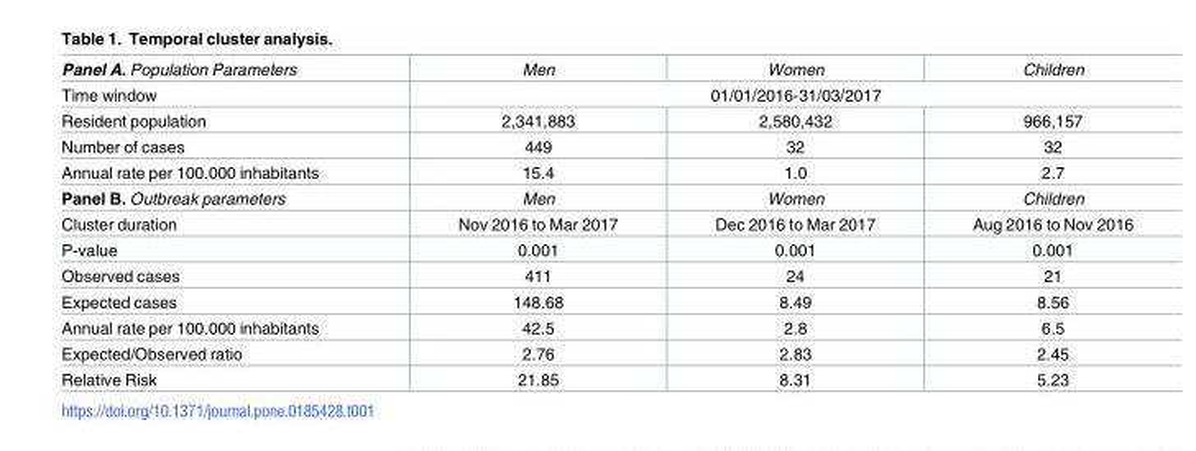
<table><tbody><tr><td>Panel A. Population Parameters</td><td>Men</td><td>Women</td><td>Children</td></tr><tr><td>Time window</td><td colspan="3">01/01/2016-31/03/2017</td></tr><tr><td>Resident population</td><td>2,341,883</td><td>2,580,432</td><td>966,157</td></tr><tr><td>Number of cases</td><td>449</td><td>32</td><td>32</td></tr><tr><td>Annual rate per 100.000 inhabitants</td><td>15.4</td><td>1.0</td><td>2.7</td></tr><tr><td>Panel B. Outbreak parameters</td><td>Men</td><td>Women</td><td>Children</td></tr><tr><td>Cluster duration</td><td>Nov 2016 to Mar 2017</td><td>Dec 2016 to Mar 2017</td><td>Aug 2016 to Nov 2016</td></tr><tr><td>P-value</td><td>0.001</td><td>0.001</td><td>0.001</td></tr><tr><td>Observed cases</td><td>411</td><td>24</td><td>21</td></tr><tr><td>Expected cases</td><td>148.68</td><td>8.49</td><td>8.56</td></tr><tr><td>Annual rate per 100.000 inhabitants</td><td>42.5</td><td>2.8</td><td>6.5</td></tr><tr><td>Expected/Observed ratio</td><td>2.76</td><td>2.83</td><td>2.45</td></tr><tr><td>Relative Risk</td><td>21.85</td><td>8.31</td><td>5.23</td></tr></tbody></table>